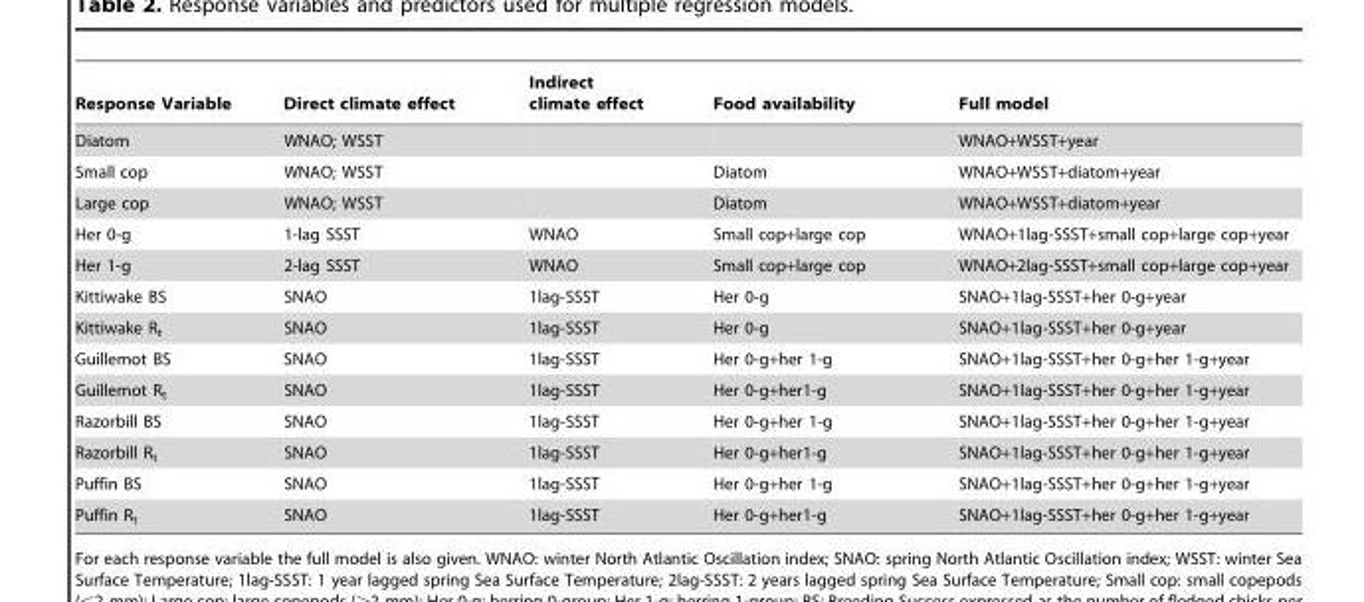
<table><thead><tr><td>Response Variable</td><td>Direct climate effect</td><td>Indirect climate effect</td><td>Food availability</td><td>Full model</td></tr></thead><tbody><tr><td>Diatom</td><td>WNAO; WSST</td><td></td><td></td><td>WNAO+WSST+year</td></tr><tr><td>Small cop</td><td>WNAO; WSST</td><td></td><td>Diatom</td><td>WNAO+WSST+diatom+year</td></tr><tr><td>Large cop</td><td>WNAO; WSST</td><td></td><td>Diatom</td><td>WNAO+WSST+diatom+year</td></tr><tr><td>Her 0-g</td><td>1-lag SSST</td><td>WNAO</td><td>Small cop+large cop</td><td>WNAO+1lag-SSST+small cop+large cop+year</td></tr><tr><td>Her 1-g</td><td>2-lag SSST</td><td>WNAO</td><td>Small cop+large cop</td><td>WNAO+2lag-SSST+small cop+large cop+year</td></tr><tr><td>Kittiwake BS</td><td>SNAO</td><td>1lag-SSST</td><td>Her 0-g</td><td>SNAO+1lag-SSST+her 0-g+year</td></tr><tr><td>Kittiwake R<sub>t</sub></td><td>SNAO</td><td>1lag-SSST</td><td>Her 0-g</td><td>SNAO+1lag-SSST+her 0-g+year</td></tr><tr><td>Guillemot BS</td><td>SNAO</td><td>1lag-SSST</td><td>Her 0-g+her 1-g</td><td>SNAO+1lag-SSST+her 0-g+her 1-g+year</td></tr><tr><td>Guillemot R<sub>t</sub></td><td>SNAO</td><td>1lag-SSST</td><td>Her 0-g+her1-g</td><td>SNAO+1lag-SSST+her 0-g+her 1-g+year</td></tr><tr><td>Razorbill BS</td><td>SNAO</td><td>1lag-SSST</td><td>Her 0-g+her 1-g</td><td>SNAO+1lag-SSST+her 0-g+her 1-g+year</td></tr><tr><td>Razorbill R<sub>t</sub></td><td>SNAO</td><td>1lag-SSST</td><td>Her 0-g+her1-g</td><td>SNAO+1lag-SSST+her 0-g+her 1-g+year</td></tr><tr><td>Puffin BS</td><td>SNAO</td><td>1lag-SSST</td><td>Her 0-g+her 1-g</td><td>SNAO+1lag-SSST+her 0-g+her 1-g+year</td></tr><tr><td>Puffin R<sub>t</sub></td><td>SNAO</td><td>1lag-SSST</td><td>Her 0-g+her1-g</td><td>SNAO+1lag-SSST+her 0-g+her 1-g+year</td></tr></tbody></table>